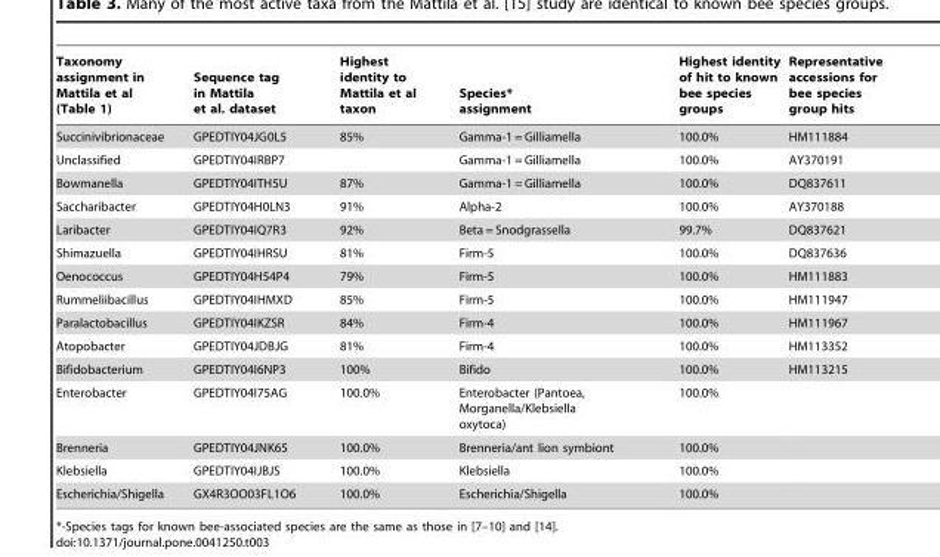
<table><thead><tr><td>Taxonomy assignment in Mattila et al (Table 1)</td><td>Sequence tag in Mattila et al. dataset</td><td>Highest identity to Mattila et al taxon</td><td>Species* assignment</td><td>Highest identity of hit to known bee species groups</td><td>Representative accessions for bee species group hits</td></tr></thead><tbody><tr><td>Succinivibrionaceae</td><td>GPEDTIY04JG0L5</td><td>85%</td><td>Gamma-1 = Gilliamella</td><td>100.0%</td><td>HM111884</td></tr><tr><td>Unclassified</td><td>GPEDTIY04IRBP7</td><td></td><td>Gamma-1 = Gilliamella</td><td>100.0%</td><td>AY370191</td></tr><tr><td>Bowmanella</td><td>GPEDTIY04ITH5U</td><td>87%</td><td>Gamma-1 = Gilliamella</td><td>100.0%</td><td>DQ837611</td></tr><tr><td>Saccharibacter</td><td>GPEDTIY04H0LN3</td><td>91%</td><td>Alpha-2</td><td>100.0%</td><td>AY370188</td></tr><tr><td>Laribacter</td><td>GPEDTIY04IQ7R3</td><td>92%</td><td>Beta = Snodgrassella</td><td>99.7%</td><td>DQ837621</td></tr><tr><td>Shimazuella</td><td>GPEDTIY04IHRSU</td><td>81%</td><td>Firm-5</td><td>100.0%</td><td>DQ837636</td></tr><tr><td>Oenococcus</td><td>GPEDTIY04H54P4</td><td>79%</td><td>Firm-5</td><td>100.0%</td><td>HM111883</td></tr><tr><td>Rummeliibacillus</td><td>GPEDTIY04IHMXD</td><td>85%</td><td>Firm-5</td><td>100.0%</td><td>HM111947</td></tr><tr><td>Paralactobacillus</td><td>GPEDTIY04IKZSR</td><td>84%</td><td>Firm-4</td><td>100.0%</td><td>HM111967</td></tr><tr><td>Atopobacter</td><td>GPEDTIY04JDBJG</td><td>81%</td><td>Firm-4</td><td>100.0%</td><td>HM113352</td></tr><tr><td>Bifidobacterium</td><td>GPEDTIY04I6NP3</td><td>100%</td><td>Bifido</td><td>100.0%</td><td>HM113215</td></tr><tr><td>Enterobacter</td><td>GPEDTIY04I75AG</td><td>100.0%</td><td>Enterobacter (Pantoea, Morganella/Klebsiella oxytoca)</td><td>100.0%</td><td></td></tr><tr><td>Brenneria</td><td>GPEDTIY04JNK65</td><td>100.0%</td><td>Brenneria/ant lion symbiont</td><td>100.0%</td><td></td></tr><tr><td>Klebsiella</td><td>GPEDTIY04IJBJS</td><td>100.0%</td><td>Klebsiella</td><td>100.0%</td><td></td></tr><tr><td>Escherichia/Shigella</td><td>GX4R3OO03FL1O6</td><td>100.0%</td><td>Escherichia/Shigella</td><td>100.0%</td><td></td></tr></tbody></table>